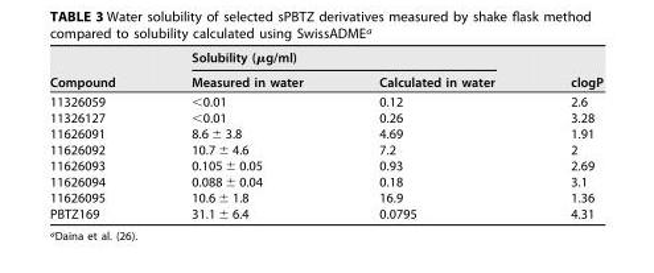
<table><thead><tr><td rowspan="2">Compound</td><td colspan="2">Solubility (μg/ml)</td><td rowspan="2">clogP</td></tr><tr><td>Measured in water</td><td>Calculated in water</td></tr></thead><tbody><tr><td>11326059</td><td>&lt;0.01</td><td>0.12</td><td>2.6</td></tr><tr><td>11326127</td><td>&lt;0.01</td><td>0.26</td><td>3.28</td></tr><tr><td>11626091</td><td>8.6 ± 3.8</td><td>4.69</td><td>1.91</td></tr><tr><td>11626092</td><td>10.7 ± 4.6</td><td>7.2</td><td>2</td></tr><tr><td>11626093</td><td>0.105 ± 0.05</td><td>0.93</td><td>2.69</td></tr><tr><td>11626094</td><td>0.088 ± 0.04</td><td>0.18</td><td>3.1</td></tr><tr><td>11626095</td><td>10.6 ± 1.8</td><td>16.9</td><td>1.36</td></tr><tr><td>PBTZ169</td><td>31.1 ± 6.4</td><td>0.0795</td><td>4.31</td></tr></tbody></table>